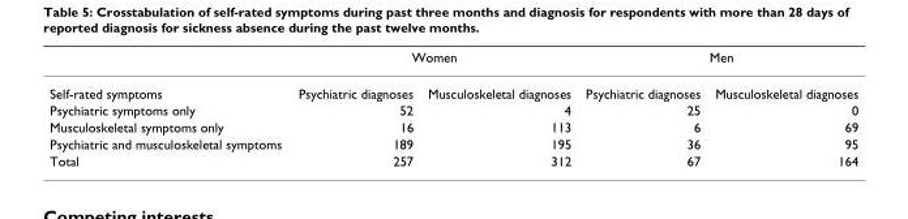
<table><thead><tr><td rowspan="2">Self-rated symptoms</td><td colspan="2">Women</td><td colspan="2">Men</td></tr><tr><td>Psychiatric diagnoses</td><td>Musculoskeletal diagnoses</td><td>Psychiatric diagnoses</td><td>Musculoskeletal diagnoses</td></tr></thead><tbody><tr><td>Psychiatric symptoms only</td><td>52</td><td>4</td><td>25</td><td>0</td></tr><tr><td>Musculoskeletal symptoms only</td><td>16</td><td>113</td><td>6</td><td>69</td></tr><tr><td>Psychiatric and musculoskeletal symptoms</td><td>189</td><td>195</td><td>36</td><td>95</td></tr><tr><td>Total</td><td>257</td><td>312</td><td>67</td><td>164</td></tr></tbody></table>